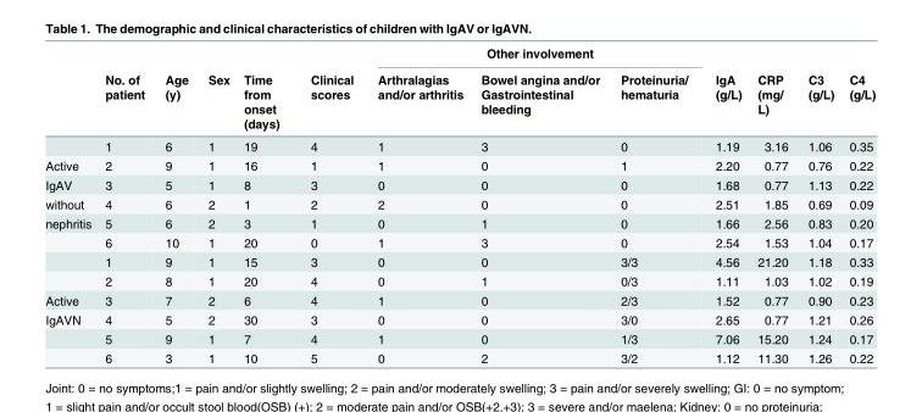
<table><thead><tr><td rowspan="2"></td><td rowspan="2">No. of patient</td><td rowspan="2">Age (y)</td><td rowspan="2">Sex</td><td rowspan="2">Time from onset (days)</td><td rowspan="2">Clinical scores</td><td colspan="3">Other involvement</td><td rowspan="2">IgA (g/L)</td><td rowspan="2">CRP (mg/ L)</td><td rowspan="2">C3 (g/L)</td><td rowspan="2">C4 (g/L)</td></tr><tr><td>Arthralagias and/or arthritis</td><td>Bowel angina and/or Gastrointestinal bleeding</td><td>Proteinuria/ hematuria</td></tr></thead><tbody><tr><td></td><td>1</td><td>6</td><td>1</td><td>19</td><td>4</td><td>1</td><td>3</td><td>0</td><td>1.19</td><td>3.16</td><td>1.06</td><td>0.35</td></tr><tr><td>Active</td><td>2</td><td>9</td><td>1</td><td>16</td><td>1</td><td>1</td><td>0</td><td>1</td><td>2.20</td><td>0.77</td><td>0.76</td><td>0.22</td></tr><tr><td>IgAV</td><td>3</td><td>5</td><td>1</td><td>8</td><td>3</td><td>0</td><td>0</td><td>0</td><td>1.68</td><td>0.77</td><td>1.13</td><td>0.22</td></tr><tr><td>without</td><td>4</td><td>6</td><td>2</td><td>1</td><td>2</td><td>2</td><td>0</td><td>0</td><td>2.51</td><td>1.85</td><td>0.69</td><td>0.09</td></tr><tr><td rowspan="4">nephritis</td><td>5</td><td>6</td><td>2</td><td>3</td><td>1</td><td>0</td><td>1</td><td>0</td><td>1.66</td><td>2.56</td><td>0.83</td><td>0.20</td></tr><tr><td>6</td><td>10</td><td>1</td><td>20</td><td>0</td><td>1</td><td>3</td><td>0</td><td>2.54</td><td>1.53</td><td>1.04</td><td>0.17</td></tr><tr><td>1</td><td>9</td><td>1</td><td>15</td><td>3</td><td>0</td><td>0</td><td>3/3</td><td>4.56</td><td>21.20</td><td>1.18</td><td>0.33</td></tr><tr><td>2</td><td>8</td><td>1</td><td>20</td><td>4</td><td>0</td><td>1</td><td>0/3</td><td>1.11</td><td>1.03</td><td>1.02</td><td>0.19</td></tr><tr><td>Active</td><td>3</td><td>7</td><td>2</td><td>6</td><td>4</td><td>1</td><td>0</td><td>2/3</td><td>1.52</td><td>0.77</td><td>0.90</td><td>0.23</td></tr><tr><td rowspan="3">IgAVN</td><td>4</td><td>5</td><td>2</td><td>30</td><td>3</td><td>0</td><td>0</td><td>3/0</td><td>2.65</td><td>0.77</td><td>1.21</td><td>0.26</td></tr><tr><td>5</td><td>9</td><td>1</td><td>7</td><td>4</td><td>1</td><td>0</td><td>1/3</td><td>7.06</td><td>15.20</td><td>1.24</td><td>0.17</td></tr><tr><td>6</td><td>3</td><td>1</td><td>10</td><td>5</td><td>0</td><td>2</td><td>3/2</td><td>1.12</td><td>11.30</td><td>1.26</td><td>0.22</td></tr></tbody></table>